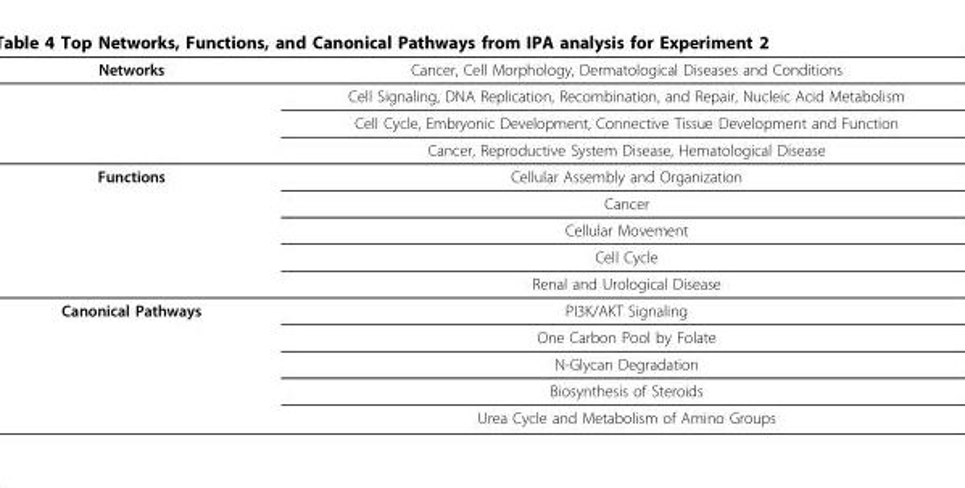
<table><thead><tr><td>Networks</td><td>Cancer, Cell Morphology, Dermatological Diseases and Conditions</td></tr></thead><tbody><tr><td></td><td>Cell Signaling, DNA Replication, Recombination, and Repair, Nucleic Acid Metabolism</td></tr><tr><td></td><td>Cell Cycle, Embryonic Development, Connective Tissue Development and Function</td></tr><tr><td></td><td>Cancer, Reproductive System Disease, Hematological Disease</td></tr><tr><td rowspan="5">Functions</td><td>Cellular Assembly and Organization</td></tr><tr><td>Cancer</td></tr><tr><td>Cellular Movement</td></tr><tr><td>Cell Cycle</td></tr><tr><td>Renal and Urological Disease</td></tr><tr><td rowspan="5">Canonical Pathways</td><td>PI3K/AKT Signaling</td></tr><tr><td>One Carbon Pool by Folate</td></tr><tr><td>N-Glycan Degradation</td></tr><tr><td>Biosynthesis of Steroids</td></tr><tr><td>Urea Cycle and Metabolism of Amino Groups</td></tr></tbody></table>